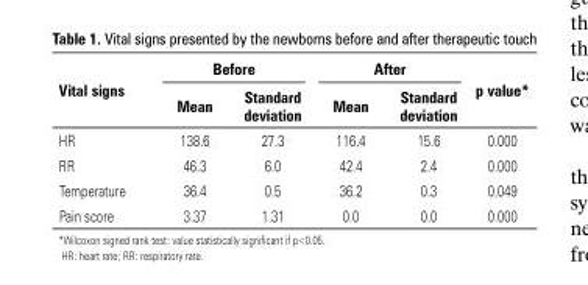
<table><thead><tr><td rowspan="2">Vital signs</td><td colspan="2">Before</td><td colspan="2">After</td><td rowspan="2">p value*</td></tr><tr><td>Mean</td><td>Standard deviation</td><td>Mean</td><td>Standard deviation</td></tr></thead><tbody><tr><td>HR</td><td>138.6</td><td>27.3</td><td>116.4</td><td>15.6</td><td>0.000</td></tr><tr><td>RR</td><td>46.3</td><td>6.0</td><td>42.4</td><td>2.4</td><td>0.000</td></tr><tr><td>Temperature</td><td>36.4</td><td>0.5</td><td>36.2</td><td>0.3</td><td>0.049</td></tr><tr><td>Pain score</td><td>3.37</td><td>1.31</td><td>0.0</td><td>0.0</td><td>0.000</td></tr></tbody></table>